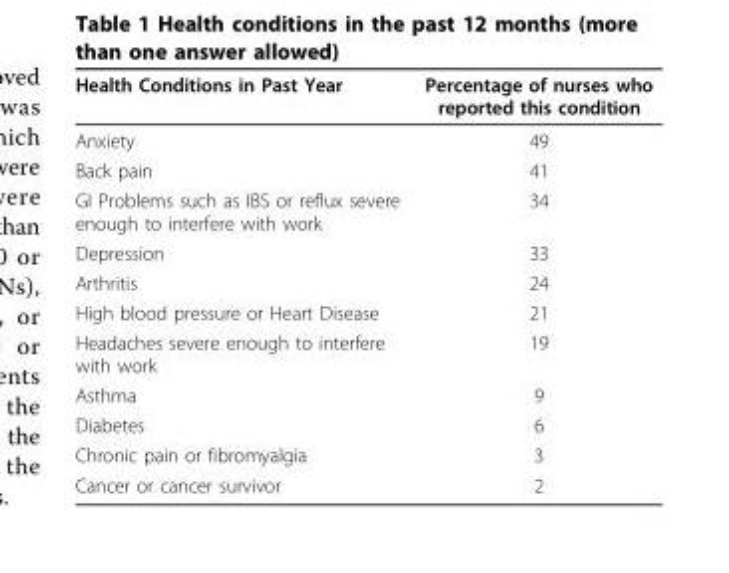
<table><thead><tr><td>Health Conditions in Past Year</td><td>Percentage of nurses who reported this condition</td></tr></thead><tbody><tr><td>Anxiety</td><td>49</td></tr><tr><td>Back pain</td><td>41</td></tr><tr><td>GI Problems such as IBS or reflux severe enough to interfere with work</td><td>34</td></tr><tr><td>Depression</td><td>33</td></tr><tr><td>Arthritis</td><td>24</td></tr><tr><td>High blood pressure or Heart Disease</td><td>21</td></tr><tr><td>Headaches severe enough to interfere with work</td><td>19</td></tr><tr><td>Asthma</td><td>9</td></tr><tr><td>Diabetes</td><td>6</td></tr><tr><td>Chronic pain or fibromyalgia</td><td>3</td></tr><tr><td>Cancer or cancer survivor</td><td>2</td></tr></tbody></table>